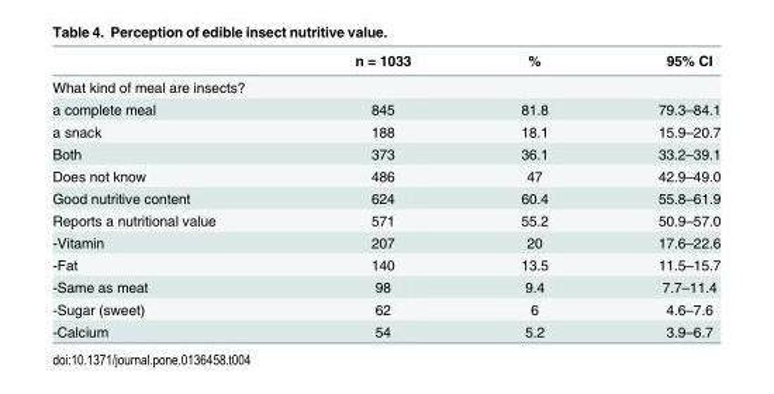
<table><thead><tr><td></td><td>n = 1033</td><td>%</td><td>95% CI</td></tr></thead><tbody><tr><td colspan="4">What kind of meal are insects?</td></tr><tr><td>a complete meal</td><td>845</td><td>81.8</td><td>79.3–84.1</td></tr><tr><td>a snack</td><td>188</td><td>18.1</td><td>15.9–20.7</td></tr><tr><td>Both</td><td>373</td><td>36.1</td><td>33.2–39.1</td></tr><tr><td>Does not know</td><td>486</td><td>47</td><td>42.9–49.0</td></tr><tr><td>Good nutritive content</td><td>624</td><td>60.4</td><td>55.8–61.9</td></tr><tr><td>Reports a nutritional value</td><td>571</td><td>55.2</td><td>50.9–57.0</td></tr><tr><td>-Vitamin</td><td>207</td><td>20</td><td>17.6–22.6</td></tr><tr><td>-Fat</td><td>140</td><td>13.5</td><td>11.5–15.7</td></tr><tr><td>-Same as meat</td><td>98</td><td>9.4</td><td>7.7–11.4</td></tr><tr><td>-Sugar (sweet)</td><td>62</td><td>6</td><td>4.6–7.6</td></tr><tr><td>-Calcium</td><td>54</td><td>5.2</td><td>3.9–6.7</td></tr></tbody></table>